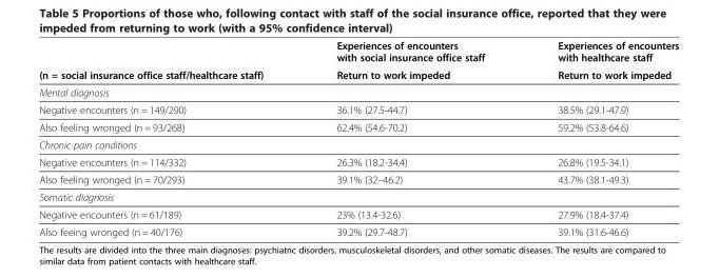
<table><thead><tr><td rowspan="2">(n = social insurance office staff/healthcare staff)</td><td rowspan="2">Experiences of encounters with social insurance office staff Return to work impeded</td><td rowspan="2">Experiences of encounters with healthcare staff Return to work impeded</td></tr><tr></tr></thead><tbody><tr><td colspan="3">Mental diagnosis</td></tr><tr><td>Negative encounters (n = 149/290)</td><td>36.1% (27.5-44.7)</td><td>38.5% (29.1-47.9)</td></tr><tr><td>Also feeling wronged (n = 93/268)</td><td>62.4% (54.6-70.2)</td><td>59.2% (53.8-64.6)</td></tr><tr><td colspan="3">Chronic pain conditions</td></tr><tr><td>Negative encounters (n = 114/332)</td><td>26.3% (18.2-34.4)</td><td>26.8% (19.5-34.1)</td></tr><tr><td>Also feeling wronged (n = 70/293)</td><td>39.1% (32–46.2)</td><td>43.7% (38.1-49.3)</td></tr><tr><td colspan="3">Somatic diagnosis</td></tr><tr><td>Negative encounters (n = 61/189)</td><td>23% (13.4-32.6)</td><td>27.9% (18.4-37.4)</td></tr><tr><td>Also feeing wronged (n = 40/176)</td><td>39.2% (29.7-48.7)</td><td>39.1% (31.6-46.6)</td></tr></tbody></table>